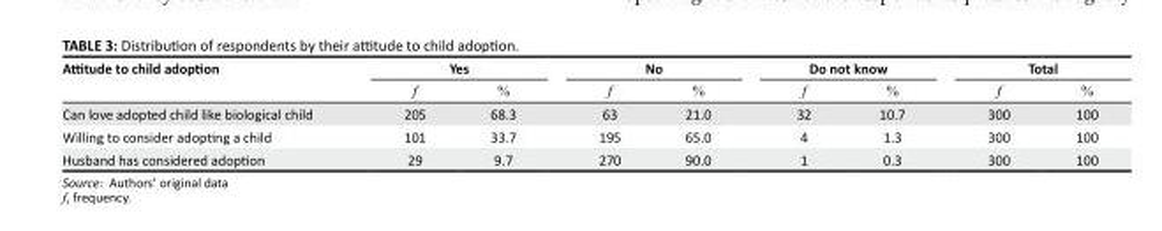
<table><thead><tr><td rowspan="2">Attitude to child adoption</td><td colspan="2">Yes</td><td colspan="2">No</td><td colspan="2">Do not know</td><td colspan="2">Total</td></tr><tr><td>f</td><td>%</td><td>f</td><td>%</td><td>f</td><td>%</td><td>f</td><td>%</td></tr></thead><tbody><tr><td>Can love adopted child like biological child</td><td>205</td><td>68.3</td><td>63</td><td>21.0</td><td>32</td><td>10.7</td><td>300</td><td>100</td></tr><tr><td>Willing to consider adopting a child</td><td>101</td><td>33.7</td><td>195</td><td>65.0</td><td>4</td><td>1.3</td><td>300</td><td>100</td></tr><tr><td>Husband has considered adoption</td><td>29</td><td>9.7</td><td>270</td><td>90.0</td><td>1</td><td>0.3</td><td>300</td><td>100</td></tr></tbody></table>